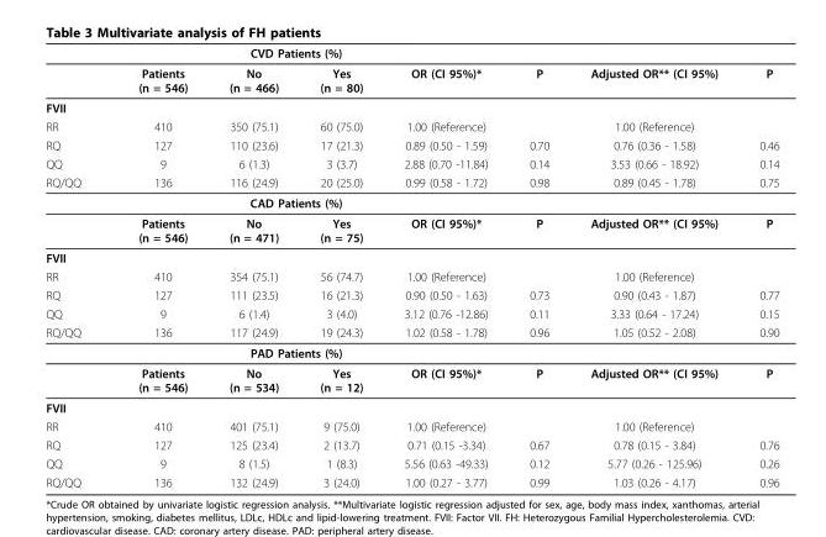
<table><thead><tr><td rowspan="2"></td><td rowspan="2">Patients (n = 546)</td><td colspan="2">CVD Patients (%)</td><td rowspan="2">OR (CI 95%)*</td><td rowspan="2">P</td><td rowspan="2">Adjusted OR** (CI 95%)</td><td rowspan="2">P</td></tr><tr><td>No (n = 466)</td><td>Yes (n = 80)</td></tr></thead><tbody><tr><td colspan="8">FVII</td></tr><tr><td>RR</td><td>410</td><td>350 (75.1)</td><td>60 (75.0)</td><td>1.00 (Reference)</td><td></td><td>1.00 (Reference)</td><td></td></tr><tr><td>RQ</td><td>127</td><td>110 (23.6)</td><td>17 (21.3)</td><td>0.89 (0.50 - 1.59)</td><td>0.70</td><td>0.76 (0.36 - 1.58)</td><td>0.46</td></tr><tr><td>QQ</td><td>9</td><td>6 (1.3)</td><td>3 (3.7)</td><td>2.88 (0.70 -11.84)</td><td>0.14</td><td>3.53 (0.66 - 18.92)</td><td>0.14</td></tr><tr><td rowspan="3">RQ/QQ</td><td>136</td><td>116 (24.9)</td><td>20 (25.0)</td><td>0.99 (0.58 - 1.72)</td><td>0.98</td><td>0.89 (0.45 - 1.78)</td><td>0.75</td></tr><tr><td></td><td colspan="2">CAD Patients (%)</td><td></td><td></td><td></td><td></td></tr><tr><td>Patients (n = 546)</td><td>No (n = 471)</td><td>Yes (n = 75)</td><td>OR (CI 95%)*</td><td>P</td><td>Adjusted OR** (CI 95%)</td><td>P</td></tr><tr><td colspan="8">FVII</td></tr><tr><td>RR</td><td>410</td><td>354 (75.1)</td><td>56 (74.7)</td><td>1.00 (Reference)</td><td></td><td>1.00 (Reference)</td><td></td></tr><tr><td>RQ</td><td>127</td><td>111 (23.5)</td><td>16 (21.3)</td><td>0.90 (0.50 - 1.63)</td><td>0.73</td><td>0.90 (0.43 - 1.87)</td><td>0.77</td></tr><tr><td>QQ</td><td>9</td><td>6 (1.4)</td><td>3 (4.0)</td><td>3.12 (0.76 -12.86)</td><td>0.11</td><td>3.33 (0.64 - 17.24)</td><td>0.15</td></tr><tr><td rowspan="3">RQ/QQ</td><td>136</td><td>117 (24.9)</td><td>19 (24.3)</td><td>1.02 (0.58 - 1.78)</td><td>0.96</td><td>1.05 (0.52 - 2.08)</td><td>0.90</td></tr><tr><td></td><td colspan="2">PAD Patients (%)</td><td></td><td></td><td></td><td></td></tr><tr><td>Patients (n = 546)</td><td>No (n = 534)</td><td>Yes (n = 12)</td><td>OR (CI 95%)*</td><td>P</td><td>Adjusted OR** (CI 95%)</td><td>P</td></tr><tr><td colspan="8">FVII</td></tr><tr><td>RR</td><td>410</td><td>401 (75.1)</td><td>9 (75.0)</td><td>1.00 (Reference)</td><td></td><td>1.00 (Reference)</td><td></td></tr><tr><td>RQ</td><td>127</td><td>125 (23.4)</td><td>2 (13.7)</td><td>0.71 (0.15 -3.34)</td><td>0.67</td><td>0.78 (0.15 - 3.84)</td><td>0.76</td></tr><tr><td>QQ</td><td>9</td><td>8 (1.5)</td><td>1 (8.3)</td><td>5.56 (0.63 -49.33)</td><td>0.12</td><td>5.77 (0.26 - 125.96)</td><td>0.26</td></tr><tr><td>RQ/QQ</td><td>136</td><td>132 (24.9)</td><td>3 (24.0)</td><td>1.00 (0.27 - 3.77)</td><td>0.99</td><td>1.03 (0.26 - 4.17)</td><td>0.96</td></tr></tbody></table>